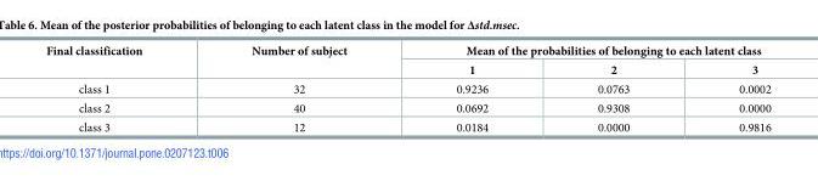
<table><thead><tr><td rowspan="2">Final classification</td><td rowspan="2">Number of subject</td><td colspan="3">Mean of the probabilities of belonging to each latent class</td></tr><tr><td>1</td><td>2</td><td>3</td></tr></thead><tbody><tr><td>class 1</td><td>32</td><td>0.9236</td><td>0.0763</td><td>0.0002</td></tr><tr><td>class 2</td><td>40</td><td>0.0692</td><td>0.9308</td><td>0.0000</td></tr><tr><td>class 3</td><td>12</td><td>0.0184</td><td>0.0000</td><td>0.9816</td></tr></tbody></table>